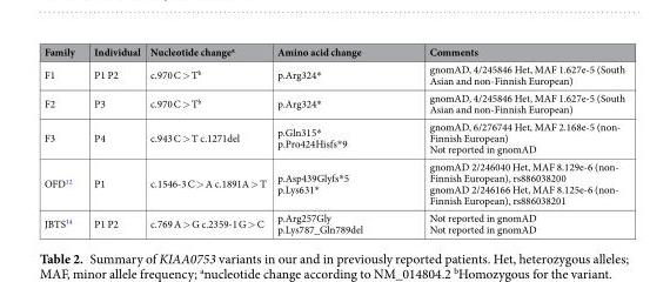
<table><thead><tr><td>Family</td><td>Individual</td><td>Nucleotide change<sup>a</sup></td><td>Amino acid change</td><td>Comments</td></tr></thead><tbody><tr><td>F1</td><td>P1 P2</td><td>c.970 C &gt; T<sup>b</sup></td><td>p.Arg324*</td><td>gnomAD, 4/245846 Het, MAF 1.627e-5 (South Asian and non-Finnish European)</td></tr><tr><td>F2</td><td>P3</td><td>c.970 C &gt; T<sup>b</sup></td><td>p.Arg324*</td><td>gnomAD, 4/245846 Het, MAF 1.627e-5 (South Asian and non-Finnish European)</td></tr><tr><td>F3</td><td>P4</td><td>c.943 C &gt; T c.1271del</td><td>p.Gln315* p.Pro424Hisfs*9</td><td>gnomAD, 6/276744 Het, MAF 2.168e-5 (non- Finnish European) Not reported in gnomAD</td></tr><tr><td>OFD<sup>12</sup></td><td>P1</td><td>c.1546-3 C &gt; A c.1891A &gt; T</td><td>p.Asp439Glyfs*5 p.Lys631*</td><td>gnomAD 2/246040 Het, MAF 8.129e-6 (non- Finnish European), rs886038200 gnomAD 2/246166 Het, MAF 8.125e-6 (non- Finnish European), rs886038201</td></tr><tr><td>JBTS<sup>14</sup></td><td>P1 P2</td><td>c.769 A &gt; G c.2359-1 G &gt; C</td><td>p.Arg257Gly p.Lys787_Gln789del</td><td>Not reported in gnomAD Not reported in gnomAD</td></tr></tbody></table>